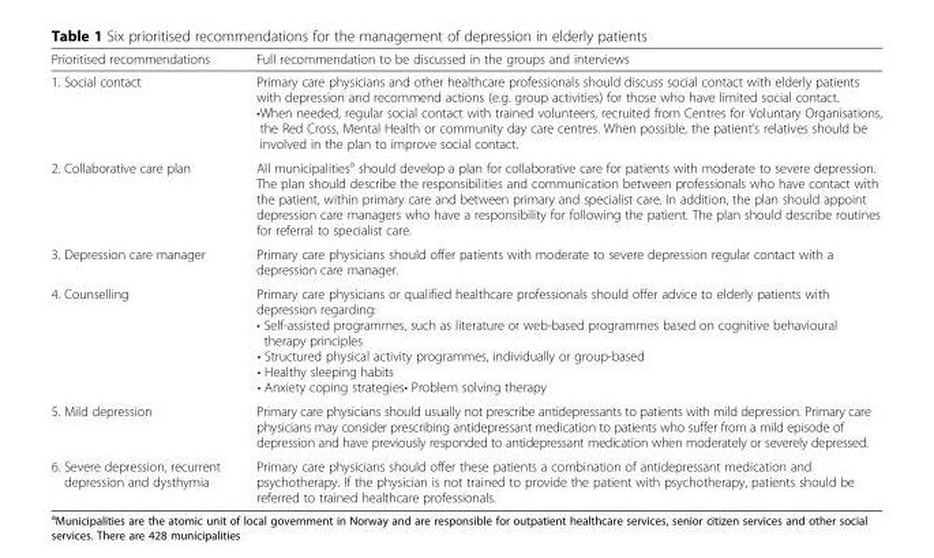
<table><thead><tr><td>Prioritised recommendations</td><td>Full recommendation to be discussed in the groups and interviews</td></tr></thead><tbody><tr><td>1. Social contact</td><td>Primary care physicians and other healthcare professionals should discuss social contact with elderly patients with depression and recommend actions (e.g. group activities) for those who have limited social contact. •When needed, regular social contact with trained volunteers, recruited from Centres for Voluntary Organisations, the Red Cross, Mental Health or community day care centres. When possible, the patient’s relatives should be involved in the plan to improve social contact.</td></tr><tr><td>2. Collaborative care plan</td><td>All municipalities<sup>a</sup> should develop a plan for collaborative care for patients with moderate to severe depression. The plan should describe the responsibilities and communication between professionals who have contact with the patient, within primary care and between primary and specialist care. In addition, the plan should appoint depression care managers who have a responsibility for following the patient. The plan should describe routines for referral to specialist care.</td></tr><tr><td>3. Depression care manager</td><td>Primary care physicians should offer patients with moderate to severe depression regular contact with a depression care manager.</td></tr><tr><td>4. Counselling</td><td>Primary care physicians or qualified healthcare professionals should offer advice to elderly patients with depression regarding: • Self-assisted programmes, such as literature or web-based programmes based on cognitive behavioural therapy principles • Structured physical activity programmes, individually or group-based • Healthy sleeping habits • Anxiety coping strategies• Problem solving therapy</td></tr><tr><td>5. Mild depression</td><td>Primary care physicians should usually not prescribe antidepressants to patients with mild depression. Primary care physicians may consider prescribing antidepressant medication to patients who suffer from a mild episode of depression and have previously responded to antidepressant medication when moderately or severely depressed.</td></tr><tr><td>6. Severe depression, recurrent depression and dysthymia</td><td>Primary care physicians should offer these patients a combination of antidepressant medication and psychotherapy. If the physician is not trained to provide the patient with psychotherapy, patients should be referred to trained healthcare professionals.</td></tr></tbody></table>